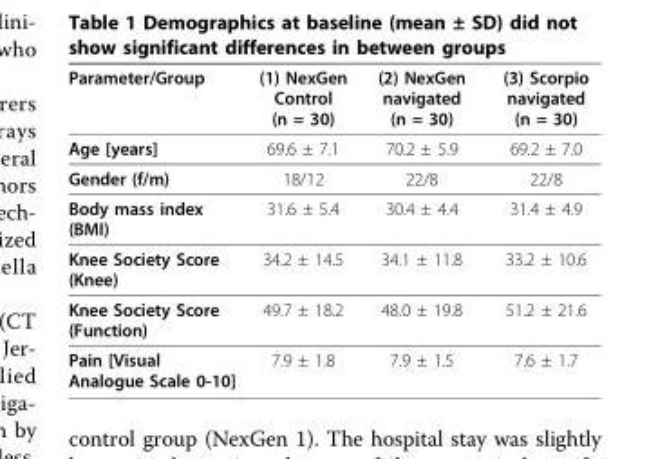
<table><thead><tr><td>Parameter/Group</td><td>(1) NexGen Control (n = 30)</td><td>(2) NexGen navigated (n = 30)</td><td>(3) Scorpio navigated (n = 30)</td></tr></thead><tbody><tr><td>Age [years]</td><td>69.6 ± 7.1</td><td>70.2 ± 5.9</td><td>69.2 ± 7.0</td></tr><tr><td>Gender (f/m)</td><td>18/12</td><td>22/8</td><td>22/8</td></tr><tr><td>Body mass index (BMI)</td><td>31.6 ± 5.4</td><td>30.4 ± 4.4</td><td>31.4 ± 4.9</td></tr><tr><td>Knee Society Score (Knee)</td><td>34.2 ± 14.5</td><td>34.1 ± 11.8</td><td>33.2 ± 10.6</td></tr><tr><td>Knee Society Score (Function)</td><td>49.7 ± 18.2</td><td>48.0 ± 19.8</td><td>51.2 ± 21.6</td></tr><tr><td>Pain [Visual Analogue Scale 0-10]</td><td>7.9 ± 1.8</td><td>7.9 ± 1.5</td><td>7.6 ± 1.7</td></tr></tbody></table>